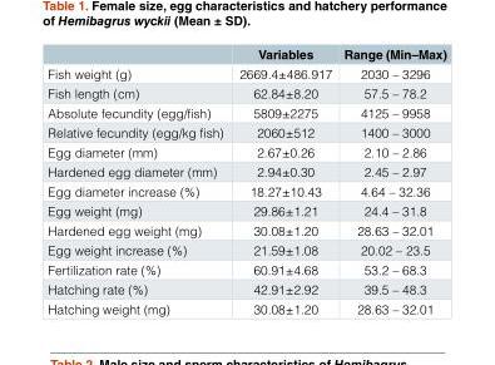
<table><thead><tr><td></td><td>Variables</td><td>Range (Min–Max)</td></tr></thead><tbody><tr><td>Fish weight (g)</td><td>2669.4±486.917</td><td>2030 – 3296</td></tr><tr><td>Fish length (cm)</td><td>62.84±8.20</td><td>57.5 – 78.2</td></tr><tr><td>Absolute fecundity (egg/fish)</td><td>5809±2275</td><td>4125 – 9958</td></tr><tr><td>Relative fecundity (egg/kg fish)</td><td>2060±512</td><td>1400 – 3000</td></tr><tr><td>Egg diameter (mm)</td><td>2.67±0.26</td><td>2.10 – 2.86</td></tr><tr><td>Hardened egg diameter (mm)</td><td>2.94±0.30</td><td>2.45 – 2.97</td></tr><tr><td>Egg diameter increase (%)</td><td>18.27±10.43</td><td>4.64 – 32.36</td></tr><tr><td>Egg weight (mg)</td><td>29.86±1.21</td><td>24.4 – 31.8</td></tr><tr><td>Hardened egg weight (mg)</td><td>30.08±1.20</td><td>28.63 – 32.01</td></tr><tr><td>Egg weight increase (%)</td><td>21.59±1.08</td><td>20.02 – 23.5</td></tr><tr><td>Fertilization rate (%)</td><td>60.91±4.68</td><td>53.2 – 68.3</td></tr><tr><td>Hatching rate (%)</td><td>42.91±2.92</td><td>39.5 – 48.3</td></tr><tr><td>Hatching weight (mg)</td><td>30.08±1.20</td><td>28.63 – 32.01</td></tr></tbody></table>